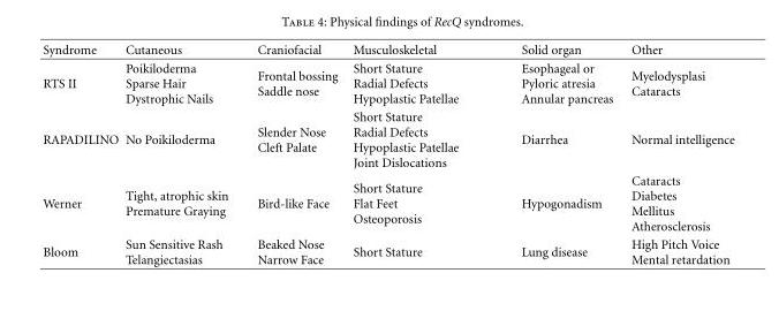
<table><thead><tr><td>Syndrome</td><td>Cutaneous</td><td>Craniofacial</td><td>Musculoskeletal</td><td>Solid organ</td><td>Other</td></tr></thead><tbody><tr><td>RTS II</td><td>Poikiloderma Sparse Hair Dystrophic Nails</td><td>Frontal bossing Saddle nose</td><td>Short Stature Radial Defects Hypoplastic Patellae</td><td>Esophageal or Pyloric atresia Annular pancreas</td><td>Myelodysplasi Cataracts</td></tr><tr><td>RAPADILINO</td><td>No Poikiloderma</td><td>Slender Nose Cleft Palate</td><td>Short Stature Radial Defects Hypoplastic Patellae Joint Dislocations</td><td>Diarrhea</td><td>Normal intelligence</td></tr><tr><td>Werner</td><td>Tight, atrophic skin Premature Graying</td><td>Bird-like Face</td><td>Short Stature Flat Feet Osteoporosis</td><td>Hypogonadism</td><td>Cataracts Diabetes Mellitus Atherosclerosis</td></tr><tr><td>Bloom</td><td>Sun Sensitive Rash Telangiectasias</td><td>Beaked Nose Narrow Face</td><td>Short Stature</td><td>Lung disease</td><td>High Pitch Voice Mental retardation</td></tr></tbody></table>